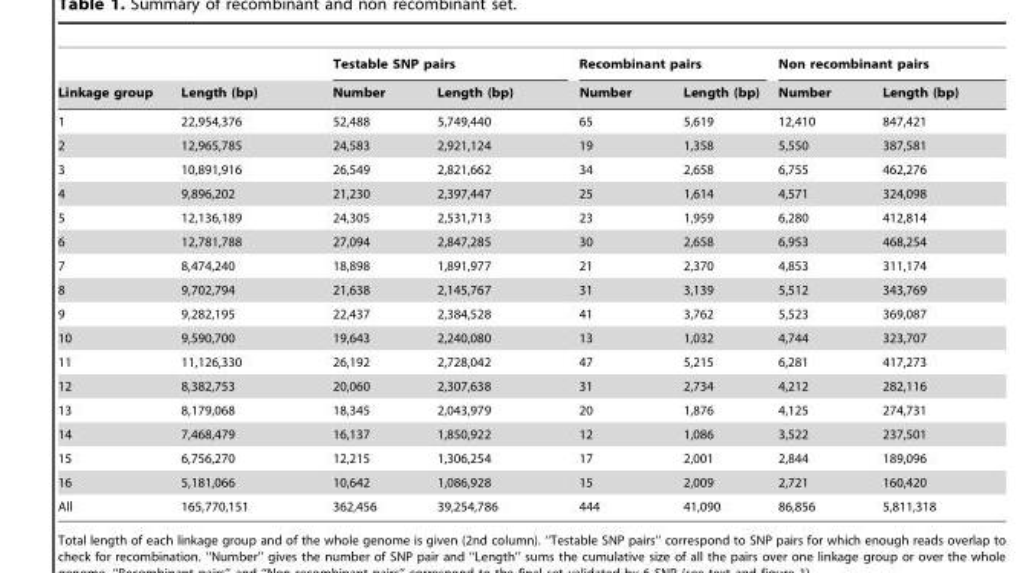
<table><thead><tr><td rowspan="2">Linkage group</td><td rowspan="2">Length (bp)</td><td colspan="2">Testable SNP pairs</td><td colspan="2">Recombinant pairs</td><td colspan="2">Non recombinant pairs</td></tr><tr><td>Number</td><td>Length (bp)</td><td>Number</td><td>Length (bp)</td><td>Number</td><td>Length (bp)</td></tr></thead><tbody><tr><td>1</td><td>22,954,376</td><td>52,488</td><td>5,749,440</td><td>65</td><td>5,619</td><td>12,410</td><td>847,421</td></tr><tr><td>2</td><td>12,965,785</td><td>24,583</td><td>2,921,124</td><td>19</td><td>1,358</td><td>5,550</td><td>387,581</td></tr><tr><td>3</td><td>10,891,916</td><td>26,549</td><td>2,821,662</td><td>34</td><td>2,658</td><td>6,755</td><td>462,276</td></tr><tr><td>4</td><td>9,896,202</td><td>21,230</td><td>2,397,447</td><td>25</td><td>1,614</td><td>4,571</td><td>324,098</td></tr><tr><td>5</td><td>12,136,189</td><td>24,305</td><td>2,531,713</td><td>23</td><td>1,959</td><td>6,280</td><td>412,814</td></tr><tr><td>6</td><td>12,781,788</td><td>27,094</td><td>2,847,285</td><td>30</td><td>2,658</td><td>6,953</td><td>468,254</td></tr><tr><td>7</td><td>8,474,240</td><td>18,898</td><td>1,891,977</td><td>21</td><td>2,370</td><td>4,853</td><td>311,174</td></tr><tr><td>8</td><td>9,702,794</td><td>21,638</td><td>2,145,767</td><td>31</td><td>3,139</td><td>5,512</td><td>343,769</td></tr><tr><td>9</td><td>9,282,195</td><td>22,437</td><td>2,384,528</td><td>41</td><td>3,762</td><td>5,523</td><td>369,087</td></tr><tr><td>10</td><td>9,590,700</td><td>19,643</td><td>2,240,080</td><td>13</td><td>1,032</td><td>4,744</td><td>323,707</td></tr><tr><td>11</td><td>11,126,330</td><td>26,192</td><td>2,728,042</td><td>47</td><td>5,215</td><td>6,281</td><td>417,273</td></tr><tr><td>12</td><td>8,382,753</td><td>20,060</td><td>2,307,638</td><td>31</td><td>2,734</td><td>4,212</td><td>282,116</td></tr><tr><td>13</td><td>8,179,068</td><td>18,345</td><td>2,043,979</td><td>20</td><td>1,876</td><td>4,125</td><td>274,731</td></tr><tr><td>14</td><td>7,468,479</td><td>16,137</td><td>1,850,922</td><td>12</td><td>1,086</td><td>3,522</td><td>237,501</td></tr><tr><td>15</td><td>6,756,270</td><td>12,215</td><td>1,306,254</td><td>17</td><td>2,001</td><td>2,844</td><td>189,096</td></tr><tr><td>16</td><td>5,181,066</td><td>10,642</td><td>1,086,928</td><td>15</td><td>2,009</td><td>2,721</td><td>160,420</td></tr><tr><td>All</td><td>165,770,151</td><td>362,456</td><td>39,254,786</td><td>444</td><td>41,090</td><td>86,856</td><td>5,811,318</td></tr></tbody></table>